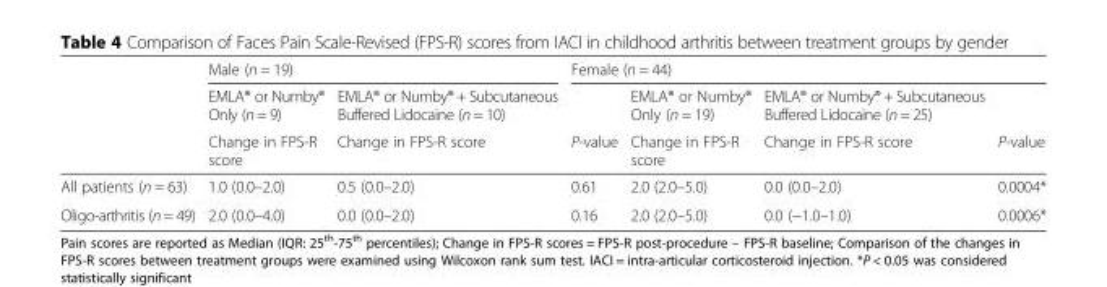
<table><thead><tr><td rowspan="3"></td><td colspan="2">Male (n = 19)</td><td colspan="4">Female (n = 44)</td></tr><tr><td rowspan="2">EMLA® or Numby® Only (n = 9) Change in FPS-R score</td><td rowspan="2">EMLA® or Numby® + Subcutaneous Buffered Lidocaine (n = 10) Change in FPS-R score</td><td rowspan="2">P-value</td><td rowspan="2">EMLA® or Numby® Only (n = 19) Change in FPS-R score</td><td rowspan="2">EMLA® or Numby® + Subcutaneous Buffered Lidocaine (n = 25) Change in FPS-R score</td><td rowspan="2">P-value</td></tr><tr></tr></thead><tbody><tr><td>All patients (n = 63)</td><td>1.0 (0.0–2.0)</td><td>0.5 (0.0–2.0)</td><td>0.61</td><td>2.0 (2.0–5.0)</td><td>0.0 (0.0–2.0)</td><td>0.0004*</td></tr><tr><td>Oligo-arthritis (n = 49)</td><td>2.0 (0.0–4.0)</td><td>0.0 (0.0–2.0)</td><td>0.16</td><td>2.0 (2.0–5.0)</td><td>0.0 (−1.0–1.0)</td><td>0.0006*</td></tr></tbody></table>